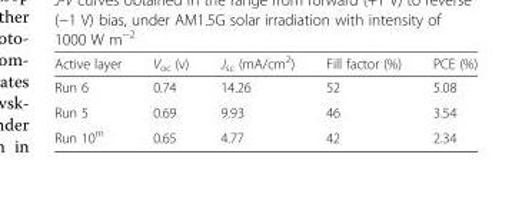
<table><thead><tr><td>Active layer</td><td>V<sub>oc</sub> (v)</td><td>J<sub>sc</sub> (mA/cm<sup>2</sup>)</td><td>Fill factor (%)</td><td>PCE (%)</td></tr></thead><tbody><tr><td>Run 6</td><td>0.74</td><td>14.26</td><td>52</td><td>5.08</td></tr><tr><td>Run 5</td><td>0.69</td><td>9.93</td><td>46</td><td>3.54</td></tr><tr><td>Run 10<sup>m</sup></td><td>0.65</td><td>4.77</td><td>42</td><td>2.34</td></tr></tbody></table>